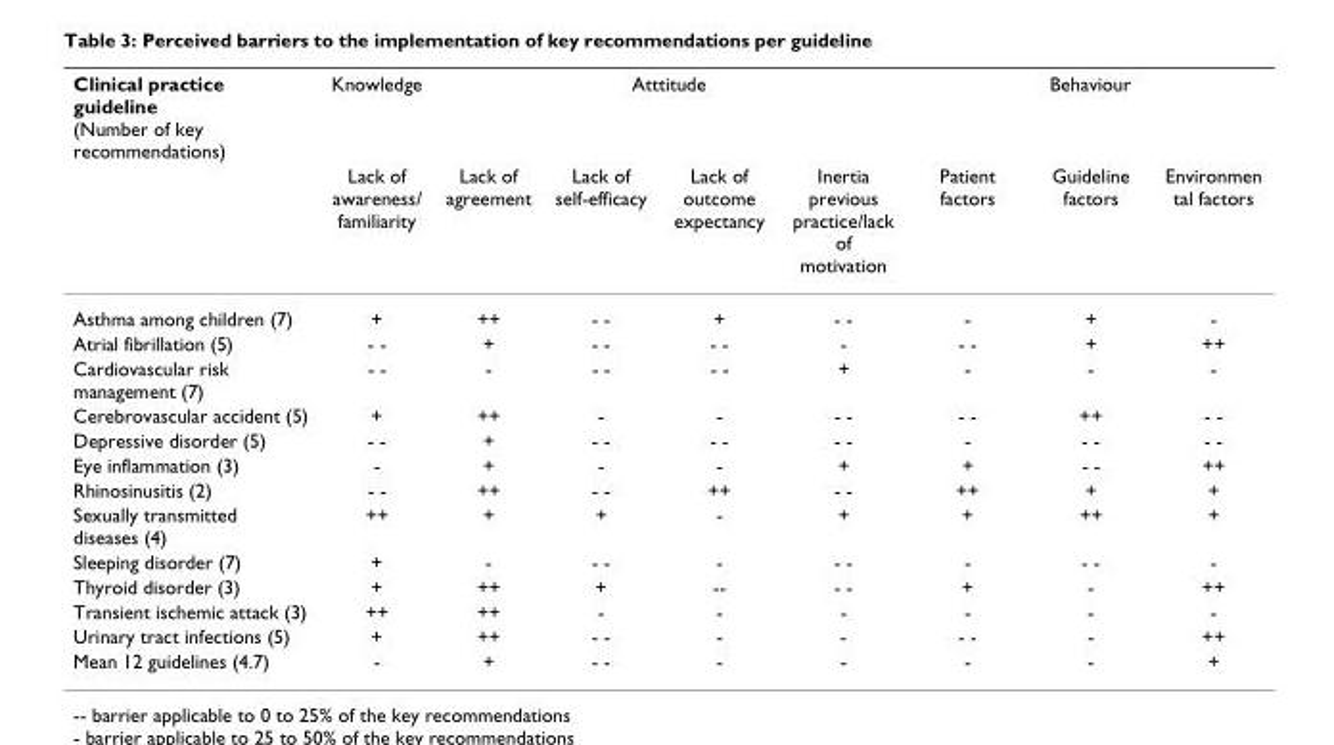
<table><thead><tr><td rowspan="2">Clinical practice guideline (Number of key recommendations)</td><td rowspan="2">Knowledge Lack of awareness/ familiarity</td><td colspan="4">Atttitude</td><td colspan="3">Behaviour</td></tr><tr><td>Lack of agreement</td><td>Lack of self-efficacy</td><td>Lack of outcome expectancy</td><td>Inertia previous practice/lack of motivation</td><td>Patient factors</td><td>Guideline factors</td><td>Environmen tal factors</td></tr></thead><tbody><tr><td>Asthma among children (7)</td><td>+</td><td>++</td><td>- -</td><td>+</td><td>- -</td><td>-</td><td>+</td><td>-</td></tr><tr><td>Atrial fibrillation (5)</td><td>- -</td><td>+</td><td>- -</td><td>- -</td><td>-</td><td>- -</td><td>+</td><td>++</td></tr><tr><td>Cardiovascular risk management (7)</td><td>- -</td><td>-</td><td>- -</td><td>- -</td><td>+</td><td>-</td><td>-</td><td>-</td></tr><tr><td>Cerebrovascular accident (5)</td><td>+</td><td>++</td><td>-</td><td>-</td><td>- -</td><td>- -</td><td>++</td><td>- -</td></tr><tr><td>Depressive disorder (5)</td><td>- -</td><td>+</td><td>- -</td><td>- -</td><td>- -</td><td>-</td><td>- -</td><td>- -</td></tr><tr><td>Eye inflammation (3)</td><td>-</td><td>+</td><td>-</td><td>-</td><td>+</td><td>+</td><td>- -</td><td>++</td></tr><tr><td>Rhinosinusitis (2)</td><td>- -</td><td>++</td><td>- -</td><td>++</td><td>- -</td><td>++</td><td>+</td><td>+</td></tr><tr><td>Sexually transmitted diseases (4)</td><td>++</td><td>+</td><td>+</td><td>-</td><td>+</td><td>+</td><td>++</td><td>+</td></tr><tr><td>Sleeping disorder (7)</td><td>+</td><td>-</td><td>- -</td><td>-</td><td>- -</td><td>-</td><td>- -</td><td>-</td></tr><tr><td>Thyroid disorder (3)</td><td>+</td><td>++</td><td>+</td><td>--</td><td>- -</td><td>+</td><td>-</td><td>++</td></tr><tr><td>Transient ischemic attack (3)</td><td>++</td><td>++</td><td>-</td><td>-</td><td>-</td><td>-</td><td>-</td><td>-</td></tr><tr><td>Urinary tract infections (5)</td><td>+</td><td>++</td><td>- -</td><td>-</td><td>-</td><td>- -</td><td>-</td><td>++</td></tr><tr><td>Mean 12 guidelines (4.7)</td><td>-</td><td>+</td><td>- -</td><td>-</td><td>-</td><td>-</td><td>-</td><td>+</td></tr></tbody></table>